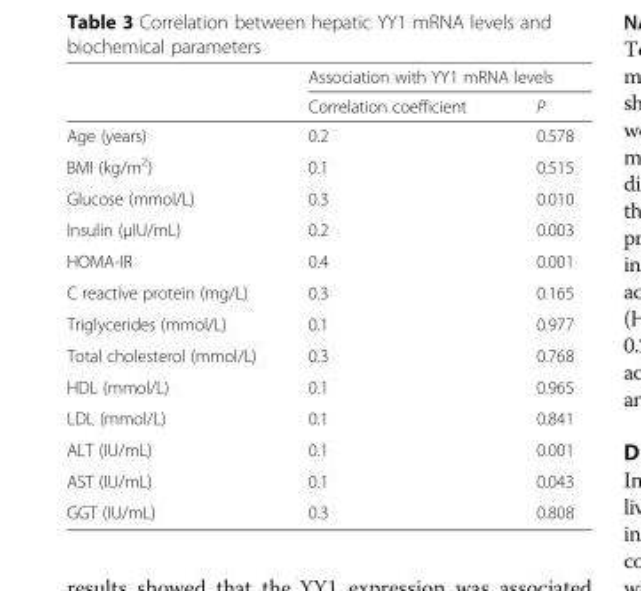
<table><thead><tr><td rowspan="2"></td><td colspan="2">Association with YY1 mRNA levels</td></tr><tr><td>Correlation coefficient</td><td>P</td></tr></thead><tbody><tr><td>Age (years)</td><td>0.2</td><td>0.578</td></tr><tr><td>BMI (kg/m<sup>2</sup>)</td><td>0.1</td><td>0.515</td></tr><tr><td>Glucose (mmol/L)</td><td>0.3</td><td>0.010</td></tr><tr><td>Insulin (μIU/mL)</td><td>0.2</td><td>0.003</td></tr><tr><td>HOMA-IR</td><td>0.4</td><td>0.001</td></tr><tr><td>C reactive protein (mg/L)</td><td>0.3</td><td>0.165</td></tr><tr><td>Triglycerides (mmol/L)</td><td>0.1</td><td>0.977</td></tr><tr><td>Total cholesterol (mmol/L)</td><td>0.3</td><td>0.768</td></tr><tr><td>HDL (mmol/L)</td><td>0.1</td><td>0.965</td></tr><tr><td>LDL (mmol/L)</td><td>0.1</td><td>0.841</td></tr><tr><td>ALT (IU/mL)</td><td>0.1</td><td>0.001</td></tr><tr><td>AST (IU/mL)</td><td>0.1</td><td>0.043</td></tr><tr><td>GGT (IU/mL)</td><td>0.3</td><td>0.808</td></tr></tbody></table>